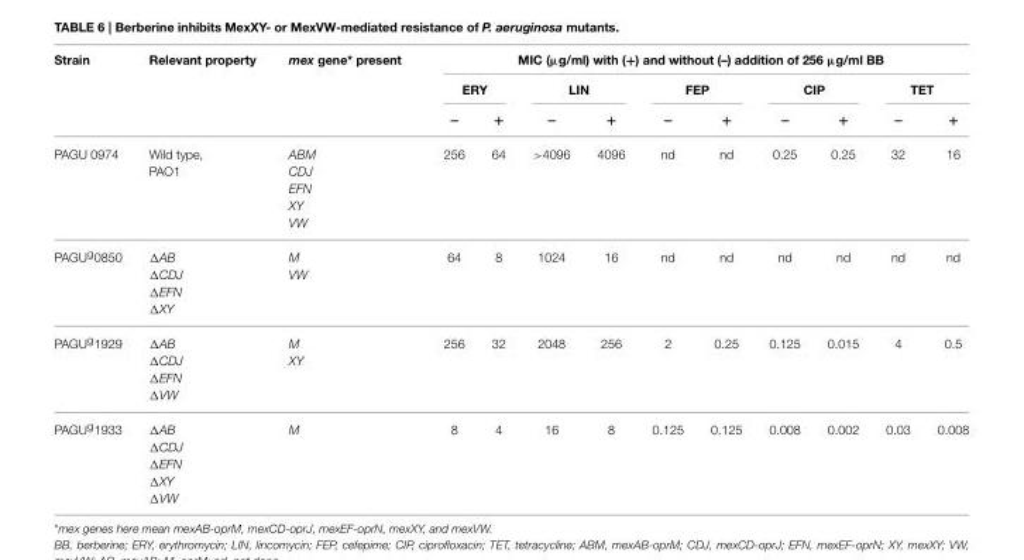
<table><thead><tr><td rowspan="3">Strain</td><td rowspan="3">Relevant property</td><td rowspan="3">mex gene* present</td><td colspan="10">MIC (µg/ml) with (+) and without (–) addition of 256 µg/ml BB</td></tr><tr><td colspan="2">ERY</td><td colspan="2">LIN</td><td colspan="2">FEP</td><td colspan="2">CIP</td><td colspan="2">TET</td></tr><tr><td>−</td><td>+</td><td>−</td><td>+</td><td>−</td><td>+</td><td>−</td><td>+</td><td>−</td><td>+</td></tr></thead><tbody><tr><td>PAGU 0974</td><td>Wild type, PAO1</td><td>ABM CDJ EFN XY VW</td><td>256</td><td>64</td><td>&gt;4096</td><td>4096</td><td>nd</td><td>nd</td><td>0.25</td><td>0.25</td><td>32</td><td>16</td></tr><tr><td>PAGU<sup>g</sup>0850</td><td>ΔAB ΔCDJ ΔEFN ΔXY</td><td>M VW</td><td>64</td><td>8</td><td>1024</td><td>16</td><td>nd</td><td>nd</td><td>nd</td><td>nd</td><td>nd</td><td>nd</td></tr><tr><td>PAGU<sup>g</sup>1929</td><td>ΔAB ΔCDJ ΔEFN ΔVW</td><td>M XY</td><td>256</td><td>32</td><td>2048</td><td>256</td><td>2</td><td>0.25</td><td>0.125</td><td>0.015</td><td>4</td><td>0.5</td></tr><tr><td>PAGU<sup>g</sup>1933</td><td>ΔAB ΔCDJ ΔEFN ΔXY ΔVW</td><td>M</td><td>8</td><td>4</td><td>16</td><td>8</td><td>0.125</td><td>0.125</td><td>0.008</td><td>0.002</td><td>0.03</td><td>0.008</td></tr></tbody></table>